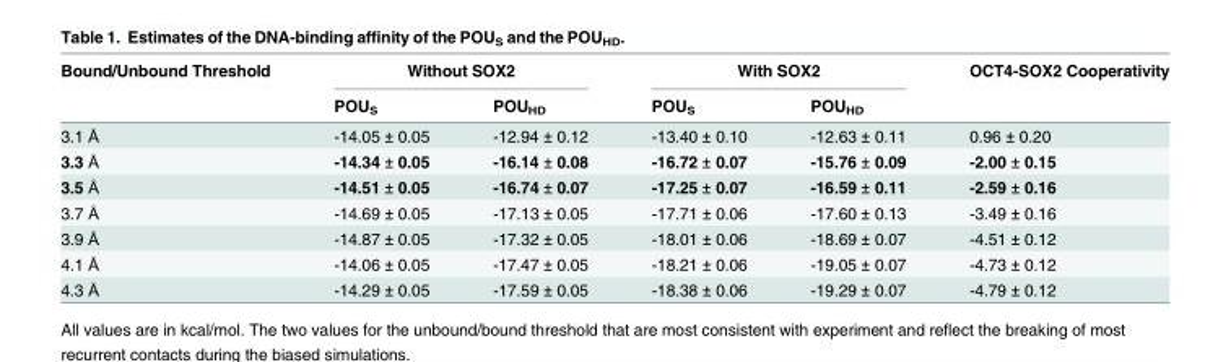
<table><thead><tr><td rowspan="2">Bound/Unbound Threshold</td><td colspan="2">Without SOX2</td><td colspan="2">With SOX2</td><td rowspan="2">OCT4-SOX2 Cooperativity</td></tr><tr><td>POU<sub>S</sub></td><td>POU<sub>HD</sub></td><td>POU<sub>S</sub></td><td>POU<sub>HD</sub></td></tr></thead><tbody><tr><td>3.1 Å</td><td>-14.05 ± 0.05</td><td>-12.94 ± 0.12</td><td>-13.40 ± 0.10</td><td>-12.63 ± 0.11</td><td>0.96 ± 0.20</td></tr><tr><td>3.3 Å</td><td>-14.34 ± 0.05</td><td>-16.14 ± 0.08</td><td>-16.72 ± 0.07</td><td>-15.76 ± 0.09</td><td>-2.00 ± 0.15</td></tr><tr><td>3.5 Å</td><td>-14.51 ± 0.05</td><td>-16.74 ± 0.07</td><td>-17.25 ± 0.07</td><td>-16.59 ± 0.11</td><td>-2.59 ± 0.16</td></tr><tr><td>3.7 Å</td><td>-14.69 ± 0.05</td><td>-17.13 ± 0.05</td><td>-17.71 ± 0.06</td><td>-17.60 ± 0.13</td><td>-3.49 ± 0.16</td></tr><tr><td>3.9 Å</td><td>-14.87 ± 0.05</td><td>-17.32 ± 0.05</td><td>-18.01 ± 0.06</td><td>-18.69 ± 0.07</td><td>-4.51 ± 0.12</td></tr><tr><td>4.1 Å</td><td>-14.06 ± 0.05</td><td>-17.47 ± 0.05</td><td>-18.21 ± 0.06</td><td>-19.05 ± 0.07</td><td>-4.73 ± 0.12</td></tr><tr><td>4.3 Å</td><td>-14.29 ± 0.05</td><td>-17.59 ± 0.05</td><td>-18.38 ± 0.06</td><td>-19.29 ± 0.07</td><td>-4.79 ± 0.12</td></tr></tbody></table>